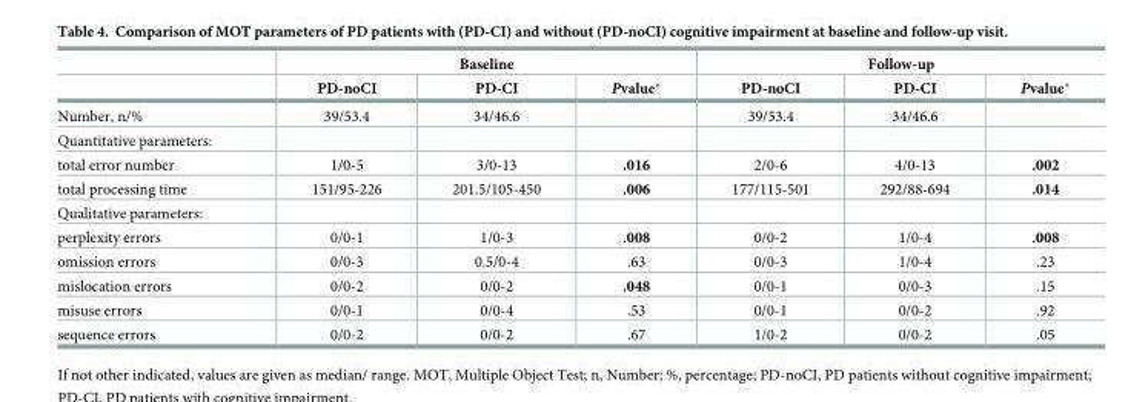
<table><thead><tr><td rowspan="2"></td><td colspan="3">Baseline</td><td colspan="3">Follow-up</td></tr><tr><td>PD-noCI</td><td>PD-CI</td><td>Pvalue*</td><td>PD-noCI</td><td>PD-CI</td><td>Pvalue*</td></tr></thead><tbody><tr><td>Number, n/%</td><td>39/53.4</td><td>34/46.6</td><td></td><td>39/53.4</td><td>34/46.6</td><td></td></tr><tr><td colspan="7">Quantitative parameters:</td></tr><tr><td>total error number</td><td>1/0-5</td><td>3/0-13</td><td>.016</td><td>2/0-6</td><td>4/0-13</td><td>.002</td></tr><tr><td>total processing time</td><td>151/95-226</td><td>201.5/105-450</td><td>.006</td><td>177/115-501</td><td>292/88-694</td><td>.014</td></tr><tr><td colspan="7">Qualitative parameters:</td></tr><tr><td>perplexity errors</td><td>0/0-1</td><td>1/0-3</td><td>.008</td><td>0/0-2</td><td>1/0-4</td><td>.008</td></tr><tr><td>omission errors</td><td>0/0-3</td><td>0.5/0-4</td><td>.63</td><td>0/0-3</td><td>1/0-4</td><td>.23</td></tr><tr><td>mislocation errors</td><td>0/0-2</td><td>0/0-2</td><td>.048</td><td>0/0-1</td><td>0/0-3</td><td>.15</td></tr><tr><td>misuse errors</td><td>0/0-1</td><td>0/0-4</td><td>.53</td><td>0/0-1</td><td>0/0-2</td><td>.92</td></tr><tr><td>sequence errors</td><td>0/0-2</td><td>0/0-2</td><td>.67</td><td>1/0-2</td><td>0/0-2</td><td>.05</td></tr></tbody></table>